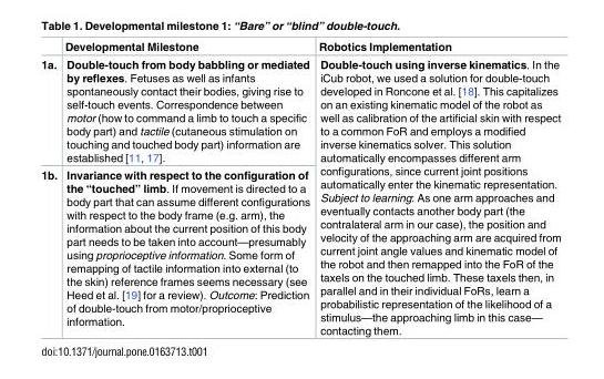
<table><thead><tr><td></td><td>Developmental Milestone</td><td>Robotics Implementation</td></tr></thead><tbody><tr><td>1a.</td><td>Double-touch from body babbling or mediated by reflexes. Fetuses as well as infants spontaneously contact their bodies, giving rise to self-touch events. Correspondence between motor (how to command a limb to touch a specific body part) and tactile (cutaneous stimulation on touching and touched body part) information are established [11, 17].</td><td rowspan="2">Double-touch using inverse kinematics. In the iCub robot, we used a solution for double-touch developed in Roncone et al. [18]. This capitalizes on an existing kinematic model of the robot as well as calibration of the artificial skin with respect to a common FoR and employs a modified inverse kinematics solver. This solution automatically encompasses different arm configurations, since current joint positions automatically enter the kinematic representation. Subject to learning: As one arm approaches and eventually contacts another body part (the contralateral arm in our case), the position and velocity of the approaching arm are acquired from current joint angle values and kinematic model of the robot and then remapped into the FoR of the taxels on the touched limb. These taxels then, in parallel and in their individual FoRs, learn a probabilistic representation of the likelihood of a stimulus—the approaching limb in this case— contacting them.</td></tr><tr><td>1b.</td><td>Invariance with respect to the configuration of the “touched” limb. If movement is directed to a body part that can assume different configurations with respect to the body frame (e.g. arm), the information about the current position of this body part needs to be taken into account—presumably using proprioceptive information. Some form of remapping of tactile information into external (to the skin) reference frames seems necessary (see Heed et al. [19] for a review). Outcome: Prediction of double-touch from motor/proprioceptive information.</td></tr></tbody></table>